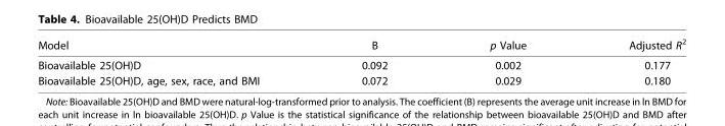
<table><thead><tr><td>Model</td><td>B</td><td>p Value</td><td>Adjusted R<sup>2</sup></td></tr></thead><tbody><tr><td>Bioavailable 25(OH)D</td><td>0.092</td><td>0.002</td><td>0.177</td></tr><tr><td>Bioavailable 25(OH)D, age, sex, race, and BMI</td><td>0.072</td><td>0.029</td><td>0.180</td></tr></tbody></table>